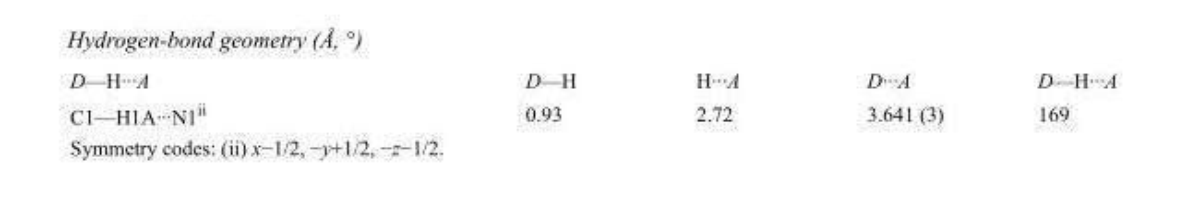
<table><tbody><tr><td>D—H···A</td><td>D—H</td><td>H···A</td><td>D···A</td><td>D—H···A</td></tr><tr><td>C1—H1A···N1<sup>ii</sup></td><td>0.93</td><td>2.72</td><td>3.641 (3)</td><td>169</td></tr></tbody></table>